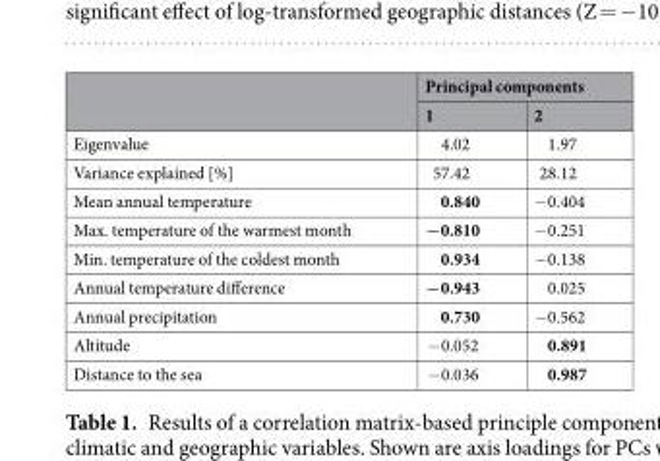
<table><thead><tr><td rowspan="2"></td><td colspan="2">Principal components</td></tr><tr><td>1</td><td>2</td></tr></thead><tbody><tr><td>Eigenvalue</td><td>4.02</td><td>1.97</td></tr><tr><td>Variance explained [%]</td><td>57.42</td><td>28.12</td></tr><tr><td>Mean annual temperature</td><td>0.840</td><td>−0.404</td></tr><tr><td>Max. temperature of the warmest month</td><td>−0.810</td><td>−0.251</td></tr><tr><td>Min. temperature of the coldest month</td><td>0.934</td><td>−0.138</td></tr><tr><td>Annual temperature difference</td><td>−0.943</td><td>0.025</td></tr><tr><td>Annual precipitation</td><td>0.730</td><td>−0.562</td></tr><tr><td>Altitude</td><td>−0.052</td><td>0.891</td></tr><tr><td>Distance to the sea</td><td>−0.036</td><td>0.987</td></tr></tbody></table>